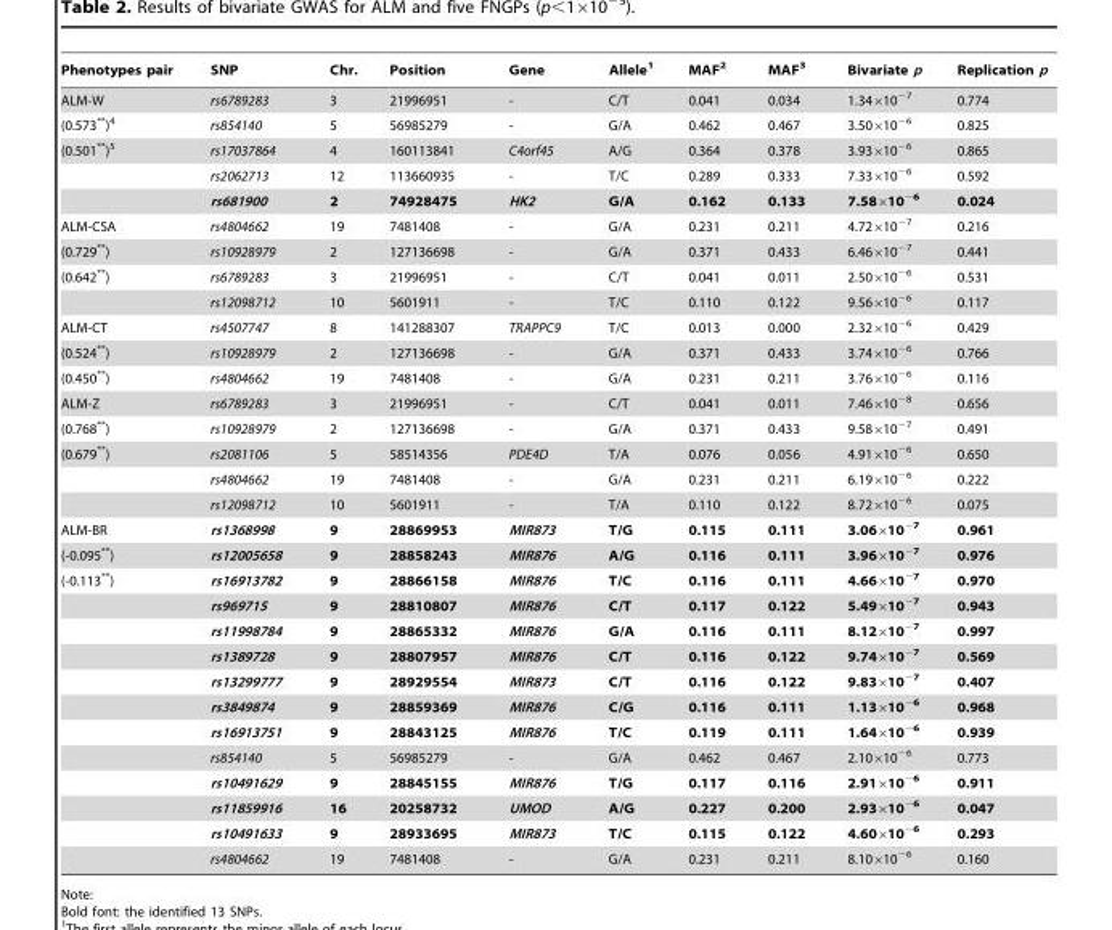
<table><thead><tr><td>Phenotypes pair</td><td>SNP</td><td>Chr.</td><td>Position</td><td>Gene</td><td>Allele<sup>1</sup></td><td>MAF<sup>2</sup></td><td>MAF<sup>3</sup></td><td>Bivariate p</td><td>Replication p</td></tr></thead><tbody><tr><td>ALM-W</td><td>rs6789283</td><td>3</td><td>21996951</td><td>-</td><td>C/T</td><td>0.041</td><td>0.034</td><td>1.34×10<sup>−7</sup></td><td>0.774</td></tr><tr><td>(0.573**)<sup>4</sup></td><td>rs854140</td><td>5</td><td>56985279</td><td>-</td><td>G/A</td><td>0.462</td><td>0.467</td><td>3.50×10<sup>−6</sup></td><td>0.825</td></tr><tr><td rowspan="3">(0.501**)<sup>5</sup></td><td>rs17037864</td><td>4</td><td>160113841</td><td>C4orf45</td><td>A/G</td><td>0.364</td><td>0.378</td><td>3.93×10<sup>−6</sup></td><td>0.865</td></tr><tr><td>rs2062713</td><td>12</td><td>113660935</td><td>-</td><td>T/C</td><td>0.289</td><td>0.333</td><td>7.33×10<sup>−6</sup></td><td>0.592</td></tr><tr><td>rs681900</td><td>2</td><td>74928475</td><td>HK2</td><td>G/A</td><td>0.162</td><td>0.133</td><td>7.58×10<sup>−6</sup></td><td>0.024</td></tr><tr><td>ALM-CSA</td><td>rs4804662</td><td>19</td><td>7481408</td><td>-</td><td>G/A</td><td>0.231</td><td>0.211</td><td>4.72×10<sup>−7</sup></td><td>0.216</td></tr><tr><td>(0.729**)</td><td>rs10928979</td><td>2</td><td>127136698</td><td>-</td><td>G/A</td><td>0.371</td><td>0.433</td><td>6.46×10<sup>−7</sup></td><td>0.441</td></tr><tr><td rowspan="2">(0.642**)</td><td>rs6789283</td><td>3</td><td>21996951</td><td>-</td><td>C/T</td><td>0.041</td><td>0.011</td><td>2.50×10<sup>−6</sup></td><td>0.531</td></tr><tr><td>rs12098712</td><td>10</td><td>5601911</td><td>-</td><td>T/C</td><td>0.110</td><td>0.122</td><td>9.56×10<sup>−6</sup></td><td>0.117</td></tr><tr><td>ALM-CT</td><td>rs4507747</td><td>8</td><td>141288307</td><td>TRAPPC9</td><td>T/C</td><td>0.013</td><td>0.000</td><td>2.32×10<sup>−6</sup></td><td>0.429</td></tr><tr><td>(0.524**)</td><td>rs10928979</td><td>2</td><td>127136698</td><td>-</td><td>G/A</td><td>0.371</td><td>0.433</td><td>3.74×10<sup>−6</sup></td><td>0.766</td></tr><tr><td>(0.450**)</td><td>rs4804662</td><td>19</td><td>7481408</td><td>-</td><td>G/A</td><td>0.231</td><td>0.211</td><td>3.76×10<sup>−6</sup></td><td>0.116</td></tr><tr><td>ALM-Z</td><td>rs6789283</td><td>3</td><td>21996951</td><td>-</td><td>C/T</td><td>0.041</td><td>0.011</td><td>7.46×10<sup>−8</sup></td><td>0.656</td></tr><tr><td>(0.768**)</td><td>rs10928979</td><td>2</td><td>127136698</td><td>-</td><td>G/A</td><td>0.371</td><td>0.433</td><td>9.58×10<sup>−7</sup></td><td>0.491</td></tr><tr><td rowspan="3">(0.679**)</td><td>rs2081106</td><td>5</td><td>58514356</td><td>PDE4D</td><td>T/A</td><td>0.076</td><td>0.056</td><td>4.91×10<sup>−6</sup></td><td>0.650</td></tr><tr><td>rs4804662</td><td>19</td><td>7481408</td><td>-</td><td>G/A</td><td>0.231</td><td>0.211</td><td>6.19×10<sup>−6</sup></td><td>0.222</td></tr><tr><td>rs12098712</td><td>10</td><td>5601911</td><td>-</td><td>T/A</td><td>0.110</td><td>0.122</td><td>8.72×10<sup>−6</sup></td><td>0.075</td></tr><tr><td>ALM-BR</td><td>rs1368998</td><td>9</td><td>28869953</td><td>MIR873</td><td>T/G</td><td>0.115</td><td>0.111</td><td>3.06×10<sup>−7</sup></td><td>0.961</td></tr><tr><td>(-0.095**)</td><td>rs12005658</td><td>9</td><td>28858243</td><td>MIR876</td><td>A/G</td><td>0.116</td><td>0.111</td><td>3.96×10<sup>−7</sup></td><td>0.976</td></tr><tr><td rowspan="12">(-0.113**)</td><td>rs16913782</td><td>9</td><td>28866158</td><td>MIR876</td><td>T/C</td><td>0.116</td><td>0.111</td><td>4.66×10<sup>−7</sup></td><td>0.970</td></tr><tr><td>rs969715</td><td>9</td><td>28810807</td><td>MIR876</td><td>C/T</td><td>0.117</td><td>0.122</td><td>5.49×10<sup>−7</sup></td><td>0.943</td></tr><tr><td>rs11998784</td><td>9</td><td>28865332</td><td>MIR876</td><td>G/A</td><td>0.116</td><td>0.111</td><td>8.12×10<sup>−7</sup></td><td>0.997</td></tr><tr><td>rs1389728</td><td>9</td><td>28807957</td><td>MIR876</td><td>C/T</td><td>0.116</td><td>0.122</td><td>9.74×10<sup>−7</sup></td><td>0.569</td></tr><tr><td>rs13299777</td><td>9</td><td>28929554</td><td>MIR873</td><td>C/T</td><td>0.116</td><td>0.122</td><td>9.83×10<sup>−7</sup></td><td>0.407</td></tr><tr><td>rs3849874</td><td>9</td><td>28859369</td><td>MIR876</td><td>C/G</td><td>0.116</td><td>0.111</td><td>1.13×10<sup>−6</sup></td><td>0.968</td></tr><tr><td>rs16913751</td><td>9</td><td>28843125</td><td>MIR876</td><td>T/C</td><td>0.119</td><td>0.111</td><td>1.64×10<sup>−6</sup></td><td>0.939</td></tr><tr><td>rs854140</td><td>5</td><td>56985279</td><td>-</td><td>G/A</td><td>0.462</td><td>0.467</td><td>2.10×10<sup>−6</sup></td><td>0.773</td></tr><tr><td>rs10491629</td><td>9</td><td>28845155</td><td>MIR876</td><td>T/G</td><td>0.117</td><td>0.116</td><td>2.91×10<sup>−6</sup></td><td>0.911</td></tr><tr><td>rs11859916</td><td>16</td><td>20258732</td><td>UMOD</td><td>A/G</td><td>0.227</td><td>0.200</td><td>2.93×10<sup>−6</sup></td><td>0.047</td></tr><tr><td>rs10491633</td><td>9</td><td>28933695</td><td>MIR873</td><td>T/C</td><td>0.115</td><td>0.122</td><td>4.60×10<sup>−6</sup></td><td>0.293</td></tr><tr><td>rs4804662</td><td>19</td><td>7481408</td><td>-</td><td>G/A</td><td>0.231</td><td>0.211</td><td>8.10×10<sup>−6</sup></td><td>0.160</td></tr></tbody></table>